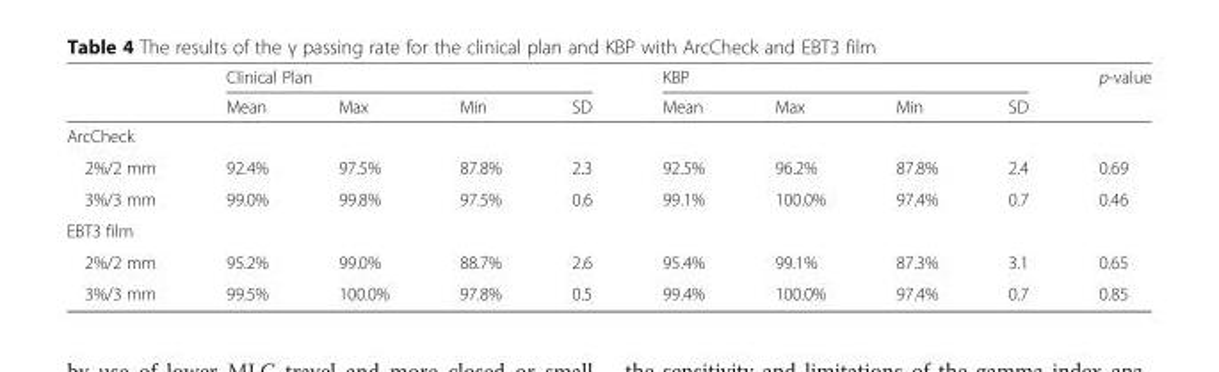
<table><thead><tr><td rowspan="2"></td><td colspan="4">Clinical Plan</td><td colspan="4">KBP</td><td rowspan="2">p-value</td></tr><tr><td>Mean</td><td>Max</td><td>Min</td><td>SD</td><td>Mean</td><td>Max</td><td>Min</td><td>SD</td></tr></thead><tbody><tr><td colspan="10">ArcCheck</td></tr><tr><td>2%/2 mm</td><td>92.4%</td><td>97.5%</td><td>87.8%</td><td>2.3</td><td>92.5%</td><td>96.2%</td><td>87.8%</td><td>2.4</td><td>0.69</td></tr><tr><td>3%/3 mm</td><td>99.0%</td><td>99.8%</td><td>97.5%</td><td>0.6</td><td>99.1%</td><td>100.0%</td><td>97.4%</td><td>0.7</td><td>0.46</td></tr><tr><td colspan="10">EBT3 film</td></tr><tr><td>2%/2 mm</td><td>95.2%</td><td>99.0%</td><td>88.7%</td><td>2.6</td><td>95.4%</td><td>99.1%</td><td>87.3%</td><td>3.1</td><td>0.65</td></tr><tr><td>3%/3 mm</td><td>99.5%</td><td>100.0%</td><td>97.8%</td><td>0.5</td><td>99.4%</td><td>100.0%</td><td>97.4%</td><td>0.7</td><td>0.85</td></tr></tbody></table>